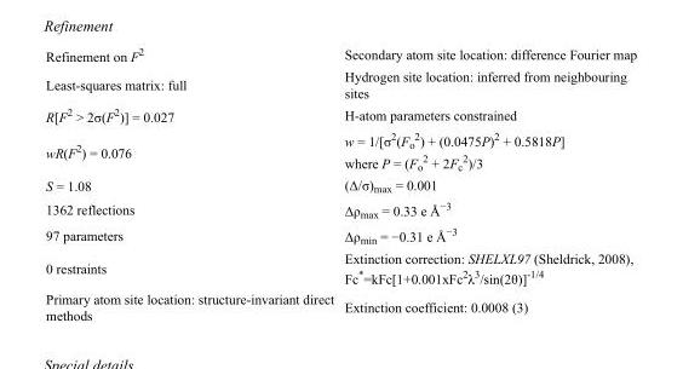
<table><tbody><tr><td>Refinement on F<sup>2</sup></td><td>Secondary atom site location: difference Fourier map</td></tr><tr><td>Least-squares matrix: full</td><td>Hydrogen site location: inferred from neighbouring sites</td></tr><tr><td>R[F<sup>2</sup> &gt; 2σ(F<sup>2</sup>)] = 0.027</td><td>H-atom parameters constrained</td></tr><tr><td>wR(F<sup>2</sup>) = 0.076</td><td>w = 1/[σ<sup>2</sup>(F<sub>o</sub> <sup>2</sup>) + (0.0475P)<sup>2</sup> + 0.5818P] where P = (F<sub>o</sub> <sup>2</sup> + 2F<sub>c</sub> <sup>2</sup>)/3</td></tr><tr><td>S = 1.08</td><td>(Δ/σ)<sub>max</sub> = 0.001</td></tr><tr><td>1362 reflections</td><td>Δρ<sub>max</sub> = 0.33 e Å<sup>−3</sup></td></tr><tr><td>97 parameters</td><td>Δρ<sub>min</sub> = −0.31 e Å<sup>−3</sup></td></tr><tr><td>0 restraints</td><td>Extinction correction: SHELXL97 (Sheldrick, 2008), Fc*=kFc[1+0.001xFc<sup>2</sup>λ<sup>3</sup>/sin(2θ)]<sup>-1/4</sup></td></tr><tr><td>Primary atom site location: structure-invariant direct methods</td><td>Extinction coefficient: 0.0008 (3)</td></tr></tbody></table>